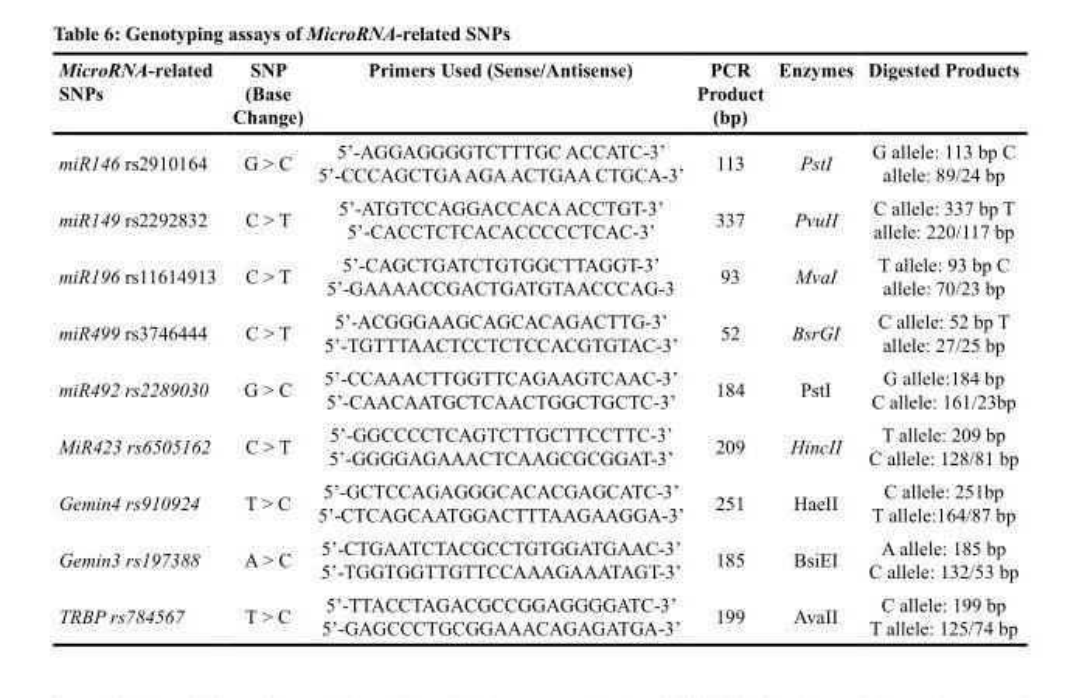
<table><thead><tr><td>MicroRNA-related SNPs</td><td>SNP (Base Change)</td><td>Primers Used (Sense/Antisense)</td><td>PCR Product (bp)</td><td>Enzymes</td><td>Digested Products</td></tr></thead><tbody><tr><td>miR146 rs2910164</td><td>G &gt; C</td><td>5’-AGGAGGGGTCTTTGC ACCATC-3’ 5’-CCCAGCTGA AGA ACTGAA CTGCA-3’</td><td>113</td><td>PstI</td><td>G allele: 113 bp C allele: 89/24 bp</td></tr><tr><td>miR149 rs2292832</td><td>C &gt; T</td><td>5’-ATGTCCAGGACCACA ACCTGT-3’ 5’-CACCTCTCACACCCCCTCAC-3’</td><td>337</td><td>PvuII</td><td>C allele: 337 bp T allele: 220/117 bp</td></tr><tr><td>miR196 rs11614913</td><td>C &gt; T</td><td>5’-CAGCTGATCTGTGGCTTAGGT-3’ 5’-GAAAACCGACTGATGTAACCCAG-3</td><td>93</td><td>MvaI</td><td>T allele: 93 bp C allele: 70/23 bp</td></tr><tr><td>miR499 rs3746444</td><td>C &gt; T</td><td>5’-ACGGGAAGCAGCACAGACTTG-3’ 5’-TGTTTAACTCCTCTCCACGTGTAC-3’</td><td>52</td><td>BsrGI</td><td>C allele: 52 bp T allele: 27/25 bp</td></tr><tr><td>miR492 rs2289030</td><td>G &gt; C</td><td>5’-CCAAACTTGGTTCAGAAGTCAAC-3’ 5’-CAACAATGCTCAACTGGCTGCTC-3’</td><td>184</td><td>PstI</td><td>G allele:184 bp C allele: 161/23bp</td></tr><tr><td>MiR423 rs6505162</td><td>C &gt; T</td><td>5’-GGCCCCTCAGTCTTGCTTCCTTC-3’ 5’-GGGGAGAAACTCAAGCGCGGAT-3’</td><td>209</td><td>HincII</td><td>T allele: 209 bp C allele: 128/81 bp</td></tr><tr><td>Gemin4 rs910924</td><td>T &gt; C</td><td>5’-GCTCCAGAGGGCACACGAGCATC-3’ 5’-CTCAGCAATGGACTTTAAGAAGGA-3’</td><td>251</td><td>HaeII</td><td>C allele: 251bp T allele:164/87 bp</td></tr><tr><td>Gemin3 rs197388</td><td>A &gt; C</td><td>5’-CTGAATCTACGCCTGTGGATGAAC-3’ 5’-TGGTGGTTGTTCCAAAGAAATAGT-3’</td><td>185</td><td>BsiEI</td><td>A allele: 185 bp C allele: 132/53 bp</td></tr><tr><td>TRBP rs784567</td><td>T &gt; C</td><td>5’-TTACCTAGACGCCGGAGGGGATC-3’ 5’-GAGCCCTGCGGAAACAGAGATGA-3’</td><td>199</td><td>AvaII</td><td>C allele: 199 bp T allele: 125/74 bp</td></tr></tbody></table>